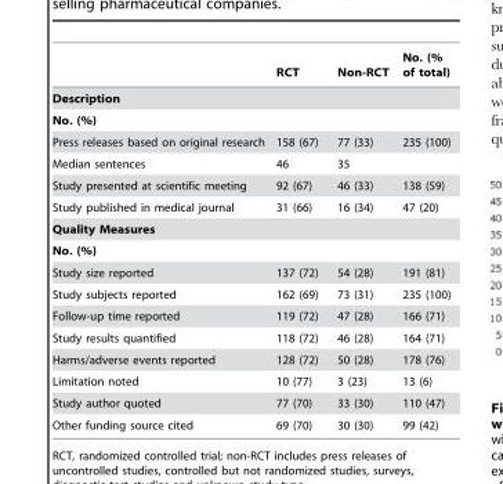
<table><thead><tr><td></td><td>RCT</td><td>Non-RCT</td><td>No. (% of total)</td></tr></thead><tbody><tr><td colspan="4">Description</td></tr><tr><td colspan="4">No. (%)</td></tr><tr><td>Press releases based on original research</td><td>158 (67)</td><td>77 (33)</td><td>235 (100)</td></tr><tr><td>Median sentences</td><td>46</td><td>35</td><td></td></tr><tr><td>Study presented at scientific meeting</td><td>92 (67)</td><td>46 (33)</td><td>138 (59)</td></tr><tr><td>Study published in medical journal</td><td>31 (66)</td><td>16 (34)</td><td>47 (20)</td></tr><tr><td colspan="4">Quality Measures</td></tr><tr><td colspan="4">No. (%)</td></tr><tr><td>Study size reported</td><td>137 (72)</td><td>54 (28)</td><td>191 (81)</td></tr><tr><td>Study subjects reported</td><td>162 (69)</td><td>73 (31)</td><td>235 (100)</td></tr><tr><td>Follow-up time reported</td><td>119 (72)</td><td>47 (28)</td><td>166 (71)</td></tr><tr><td>Study results quantified</td><td>118 (72)</td><td>46 (28)</td><td>164 (71)</td></tr><tr><td>Harms/adverse events reported</td><td>128 (72)</td><td>50 (28)</td><td>178 (76)</td></tr><tr><td>Limitation noted</td><td>10 (77)</td><td>3 (23)</td><td>13 (6)</td></tr><tr><td>Study author quoted</td><td>77 (70)</td><td>33 (30)</td><td>110 (47)</td></tr><tr><td>Other funding source cited</td><td>69 (70)</td><td>30 (30)</td><td>99 (42)</td></tr></tbody></table>